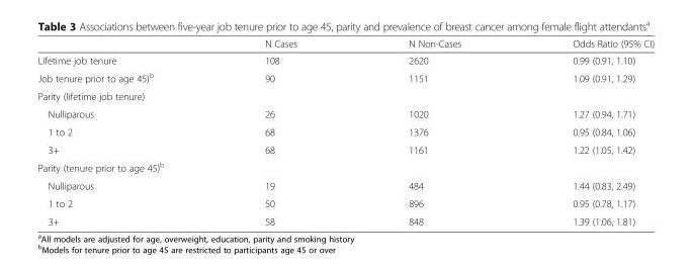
<table><thead><tr><td></td><td>N Cases</td><td>N Non-Cases</td><td>Odds Ratio (95% CI)</td></tr></thead><tbody><tr><td>Lifetime job tenure</td><td>108</td><td>2620</td><td>0.99 (0.91, 1.10)</td></tr><tr><td>Job tenure prior to age 45)<sup>b</sup></td><td>90</td><td>1151</td><td>1.09 (0.91, 1.29)</td></tr><tr><td colspan="4">Parity (lifetime job tenure)</td></tr><tr><td>Nulliparous</td><td>26</td><td>1020</td><td>1.27 (0.94, 1.71)</td></tr><tr><td>1 to 2</td><td>68</td><td>1376</td><td>0.95 (0.84, 1.06)</td></tr><tr><td>3+</td><td>68</td><td>1161</td><td>1.22 (1.05, 1.42)</td></tr><tr><td colspan="4">Parity (tenure prior to age 45)<sup>b</sup></td></tr><tr><td>Nulliparous</td><td>19</td><td>484</td><td>1.44 (0.83, 2.49)</td></tr><tr><td>1 to 2</td><td>50</td><td>896</td><td>0.95 (0.78, 1.17)</td></tr><tr><td>3+</td><td>58</td><td>848</td><td>1.39 (1.06, 1.81)</td></tr></tbody></table>